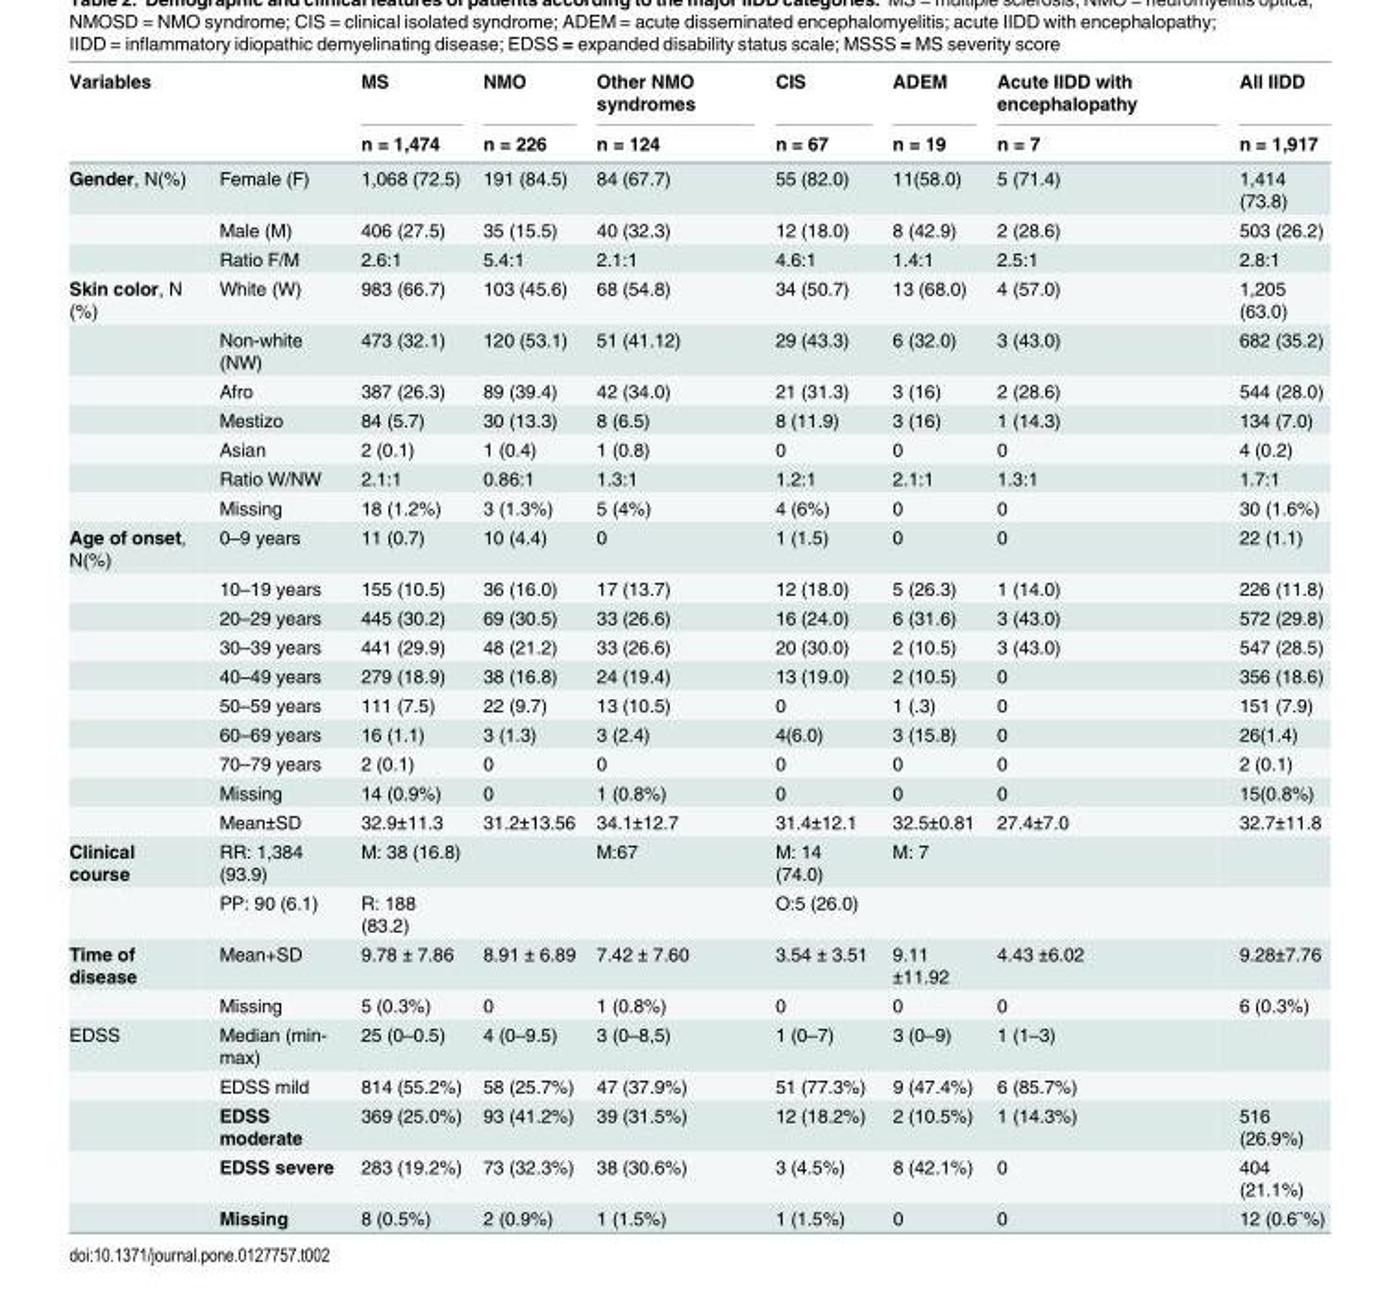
<table><thead><tr><td rowspan="2">Variables</td><td rowspan="2"></td><td rowspan="2">MS n = 1,474</td><td rowspan="2">NMO n = 226</td><td rowspan="2">Other NMO syndromes n = 124</td><td rowspan="2">CIS n = 67</td><td rowspan="2">ADEM n = 19</td><td rowspan="2">Acute IIDD with encephalopathy n = 7</td><td rowspan="2">All IIDD n = 1,917</td></tr><tr></tr></thead><tbody><tr><td rowspan="3">Gender, N(%)</td><td>Female (F)</td><td>1,068 (72.5)</td><td>191 (84.5)</td><td>84 (67.7)</td><td>55 (82.0)</td><td>11(58.0)</td><td>5 (71.4)</td><td>1,414 (73.8)</td></tr><tr><td>Male (M)</td><td>406 (27.5)</td><td>35 (15.5)</td><td>40 (32.3)</td><td>12 (18.0)</td><td>8 (42.9)</td><td>2 (28.6)</td><td>503 (26.2)</td></tr><tr><td>Ratio F/M</td><td>2.6:1</td><td>5.4:1</td><td>2.1:1</td><td>4.6:1</td><td>1.4:1</td><td>2.5:1</td><td>2.8:1</td></tr><tr><td rowspan="7">Skin color, N (%)</td><td>White (W)</td><td>983 (66.7)</td><td>103 (45.6)</td><td>68 (54.8)</td><td>34 (50.7)</td><td>13 (68.0)</td><td>4 (57.0)</td><td>1,205 (63.0)</td></tr><tr><td>Non-white (NW)</td><td>473 (32.1)</td><td>120 (53.1)</td><td>51 (41.12)</td><td>29 (43.3)</td><td>6 (32.0)</td><td>3 (43.0)</td><td>682 (35.2)</td></tr><tr><td>Afro</td><td>387 (26.3)</td><td>89 (39.4)</td><td>42 (34.0)</td><td>21 (31.3)</td><td>3 (16)</td><td>2 (28.6)</td><td>544 (28.0)</td></tr><tr><td>Mestizo</td><td>84 (5.7)</td><td>30 (13.3)</td><td>8 (6.5)</td><td>8 (11.9)</td><td>3 (16)</td><td>1 (14.3)</td><td>134 (7.0)</td></tr><tr><td>Asian</td><td>2 (0.1)</td><td>1 (0.4)</td><td>1 (0.8)</td><td>0</td><td>0</td><td>0</td><td>4 (0.2)</td></tr><tr><td>Ratio W/NW</td><td>2.1:1</td><td>0.86:1</td><td>1.3:1</td><td>1.2:1</td><td>2.1:1</td><td>1.3:1</td><td>1.7:1</td></tr><tr><td>Missing</td><td>18 (1.2%)</td><td>3 (1.3%)</td><td>5 (4%)</td><td>4 (6%)</td><td>0</td><td>0</td><td>30 (1.6%)</td></tr><tr><td rowspan="10">Age of onset, N(%)</td><td>0–9 years</td><td>11 (0.7)</td><td>10 (4.4)</td><td>0</td><td>1 (1.5)</td><td>0</td><td>0</td><td>22 (1.1)</td></tr><tr><td>10–19 years</td><td>155 (10.5)</td><td>36 (16.0)</td><td>17 (13.7)</td><td>12 (18.0)</td><td>5 (26.3)</td><td>1 (14.0)</td><td>226 (11.8)</td></tr><tr><td>20–29 years</td><td>445 (30.2)</td><td>69 (30.5)</td><td>33 (26.6)</td><td>16 (24.0)</td><td>6 (31.6)</td><td>3 (43.0)</td><td>572 (29.8)</td></tr><tr><td>30–39 years</td><td>441 (29.9)</td><td>48 (21.2)</td><td>33 (26.6)</td><td>20 (30.0)</td><td>2 (10.5)</td><td>3 (43.0)</td><td>547 (28.5)</td></tr><tr><td>40–49 years</td><td>279 (18.9)</td><td>38 (16.8)</td><td>24 (19.4)</td><td>13 (19.0)</td><td>2 (10.5)</td><td>0</td><td>356 (18.6)</td></tr><tr><td>50–59 years</td><td>111 (7.5)</td><td>22 (9.7)</td><td>13 (10.5)</td><td>0</td><td>1 (.3)</td><td>0</td><td>151 (7.9)</td></tr><tr><td>60–69 years</td><td>16 (1.1)</td><td>3 (1.3)</td><td>3 (2.4)</td><td>4(6.0)</td><td>3 (15.8)</td><td>0</td><td>26(1.4)</td></tr><tr><td>70–79 years</td><td>2 (0.1)</td><td>0</td><td>0</td><td>0</td><td>0</td><td>0</td><td>2 (0.1)</td></tr><tr><td>Missing</td><td>14 (0.9%)</td><td>0</td><td>1 (0.8%)</td><td>0</td><td>0</td><td>0</td><td>15(0.8%)</td></tr><tr><td>Mean±SD</td><td>32.9±11.3</td><td>31.2±13.56</td><td>34.1±12.7</td><td>31.4±12.1</td><td>32.5±0.81</td><td>27.4±7.0</td><td>32.7±11.8</td></tr><tr><td rowspan="2">Clinical course</td><td>RR: 1,384 (93.9)</td><td>M: 38 (16.8)</td><td></td><td>M:67</td><td>M: 14 (74.0)</td><td>M: 7</td><td></td><td></td></tr><tr><td>PP: 90 (6.1)</td><td>R: 188 (83.2)</td><td></td><td></td><td>O:5 (26.0)</td><td></td><td></td><td></td></tr><tr><td rowspan="2">Time of disease</td><td>Mean+SD</td><td>9.78 ± 7.86</td><td>8.91 ± 6.89</td><td>7.42 ± 7.60</td><td>3.54 ± 3.51</td><td>9.11 ±11.92</td><td>4.43 ±6.02</td><td>9.28±7.76</td></tr><tr><td>Missing</td><td>5 (0.3%)</td><td>0</td><td>1 (0.8%)</td><td>0</td><td>0</td><td>0</td><td>6 (0.3%)</td></tr><tr><td rowspan="5">EDSS</td><td>Median (min- max)</td><td>25 (0–0.5)</td><td>4 (0–9.5)</td><td>3 (0–8,5)</td><td>1 (0–7)</td><td>3 (0–9)</td><td>1 (1–3)</td><td></td></tr><tr><td>EDSS mild</td><td>814 (55.2%)</td><td>58 (25.7%)</td><td>47 (37.9%)</td><td>51 (77.3%)</td><td>9 (47.4%)</td><td>6 (85.7%)</td><td></td></tr><tr><td>EDSS moderate</td><td>369 (25.0%)</td><td>93 (41.2%)</td><td>39 (31.5%)</td><td>12 (18.2%)</td><td>2 (10.5%)</td><td>1 (14.3%)</td><td>516 (26.9%)</td></tr><tr><td>EDSS severe</td><td>283 (19.2%)</td><td>73 (32.3%)</td><td>38 (30.6%)</td><td>3 (4.5%)</td><td>8 (42.1%)</td><td>0</td><td>404 (21.1%)</td></tr><tr><td>Missing</td><td>8 (0.5%)</td><td>2 (0.9%)</td><td>1 (1.5%)</td><td>1 (1.5%)</td><td>0</td><td>0</td><td>12 (0.6¨%)</td></tr></tbody></table>